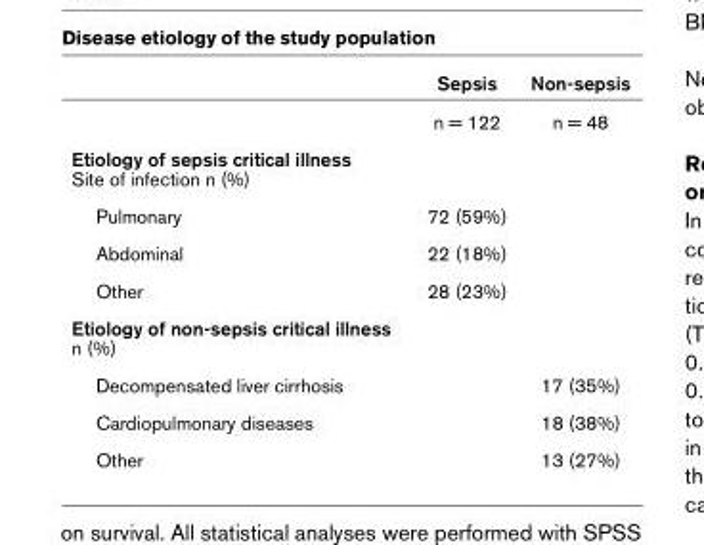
<table><thead><tr><td></td><td>Sepsis</td><td>Non-sepsis</td></tr></thead><tbody><tr><td></td><td>n = 122</td><td>n = 48</td></tr><tr><td colspan="3">Etiology of sepsis critical illness Site of infection n (%)</td></tr><tr><td>Pulmonary</td><td>72 (59%)</td><td></td></tr><tr><td>Abdominal</td><td>22 (18%)</td><td></td></tr><tr><td>Other</td><td>28 (23%)</td><td></td></tr><tr><td colspan="3">Etiology of non-sepsis critical illness n (%)</td></tr><tr><td>Decompensated liver cirrhosis</td><td></td><td>17 (35%)</td></tr><tr><td>Cardiopulmonary diseases</td><td></td><td>18 (38%)</td></tr><tr><td>Other</td><td></td><td>13 (27%)</td></tr></tbody></table>